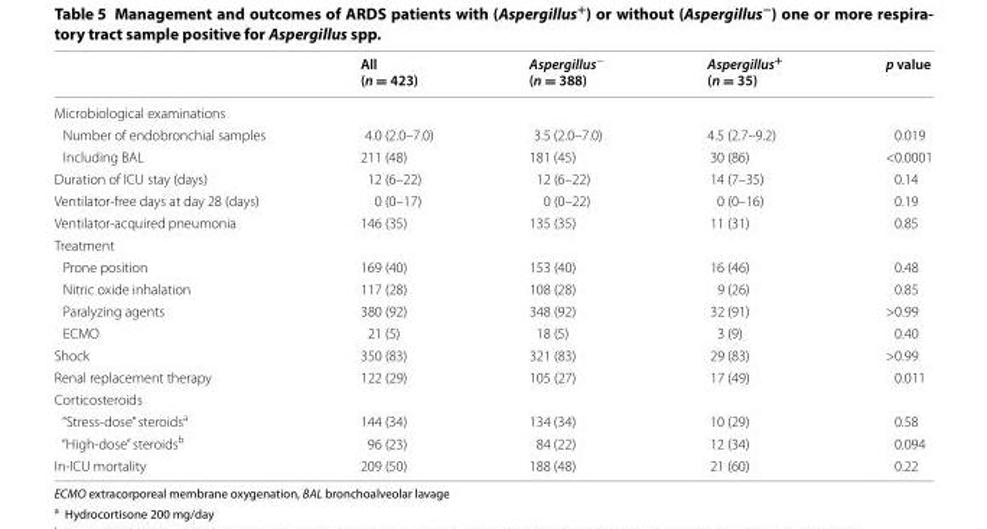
<table><thead><tr><td></td><td>All (n = 423)</td><td>Aspergillus<sup>−</sup> (n = 388)</td><td>Aspergillus<sup>+</sup> (n = 35)</td><td>p value</td></tr></thead><tbody><tr><td colspan="5">Microbiological examinations</td></tr><tr><td>Number of endobronchial samples</td><td>4.0 (2.0–7.0)</td><td>3.5 (2.0–7.0)</td><td>4.5 (2.7–9.2)</td><td>0.019</td></tr><tr><td>Including BAL</td><td>211 (48)</td><td>181 (45)</td><td>30 (86)</td><td>&lt;0.0001</td></tr><tr><td>Duration of ICU stay (days)</td><td>12 (6–22)</td><td>12 (6–22)</td><td>14 (7–35)</td><td>0.14</td></tr><tr><td>Ventilator‑free days at day 28 (days)</td><td>0 (0–17)</td><td>0 (0–22)</td><td>0 (0–16)</td><td>0.19</td></tr><tr><td>Ventilator‑acquired pneumonia</td><td>146 (35)</td><td>135 (35)</td><td>11 (31)</td><td>0.85</td></tr><tr><td colspan="5">Treatment</td></tr><tr><td>Prone position</td><td>169 (40)</td><td>153 (40)</td><td>16 (46)</td><td>0.48</td></tr><tr><td>Nitric oxide inhalation</td><td>117 (28)</td><td>108 (28)</td><td>9 (26)</td><td>0.85</td></tr><tr><td>Paralyzing agents</td><td>380 (92)</td><td>348 (92)</td><td>32 (91)</td><td>&gt;0.99</td></tr><tr><td>ECMO</td><td>21 (5)</td><td>18 (5)</td><td>3 (9)</td><td>0.40</td></tr><tr><td>Shock</td><td>350 (83)</td><td>321 (83)</td><td>29 (83)</td><td>&gt;0.99</td></tr><tr><td>Renal replacement therapy</td><td>122 (29)</td><td>105 (27)</td><td>17 (49)</td><td>0.011</td></tr><tr><td colspan="5">Corticosteroids</td></tr><tr><td>“Stress‑dose” steroids<sup>a</sup></td><td>144 (34)</td><td>134 (34)</td><td>10 (29)</td><td>0.58</td></tr><tr><td>“High‑dose” steroids<sup>b</sup></td><td>96 (23)</td><td>84 (22)</td><td>12 (34)</td><td>0.094</td></tr><tr><td>In‑ICU mortality</td><td>209 (50)</td><td>188 (48)</td><td>21 (60)</td><td>0.22</td></tr></tbody></table>